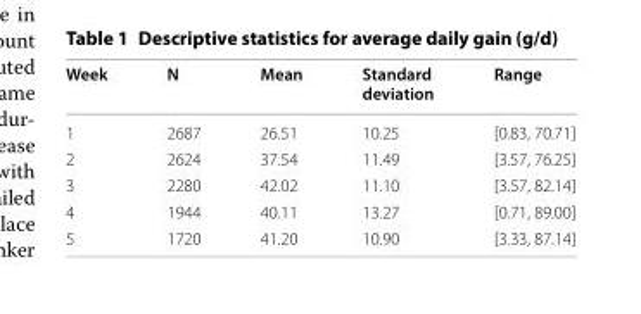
<table><thead><tr><td>Week</td><td>N</td><td>Mean</td><td>Standard deviation</td><td>Range</td></tr></thead><tbody><tr><td>1</td><td>2687</td><td>26.51</td><td>10.25</td><td>[0.83, 70.71]</td></tr><tr><td>2</td><td>2624</td><td>37.54</td><td>11.49</td><td>[3.57, 76.25]</td></tr><tr><td>3</td><td>2280</td><td>42.02</td><td>11.10</td><td>[3.57, 82.14]</td></tr><tr><td>4</td><td>1944</td><td>40.11</td><td>13.27</td><td>[0.71, 89.00]</td></tr><tr><td>5</td><td>1720</td><td>41.20</td><td>10.90</td><td>[3.33, 87.14]</td></tr></tbody></table>